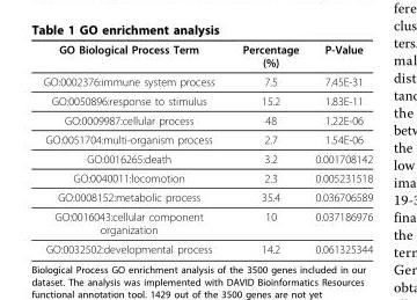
<table><thead><tr><td>GO Biological Process Term</td><td>Percentage (%)</td><td>P-Value</td></tr></thead><tbody><tr><td>GO:0002376:immune system process</td><td>7.5</td><td>7.45E-31</td></tr><tr><td>GO:0050896:response to stimulus</td><td>15.2</td><td>1.83E-11</td></tr><tr><td>GO:0009987:cellular process</td><td>48</td><td>1.22E-06</td></tr><tr><td>GO:0051704:multi-organism process</td><td>2.7</td><td>1.54E-06</td></tr><tr><td>GO:0016265:death</td><td>3.2</td><td>0.001708142</td></tr><tr><td>GO:0040011:locomotion</td><td>2.3</td><td>0.005231518</td></tr><tr><td>GO:0008152:metabolic process</td><td>35.4</td><td>0.036706589</td></tr><tr><td>GO:0016043:cellular component organization</td><td>10</td><td>0.037186976</td></tr><tr><td>GO:0032502:developmental process</td><td>14.2</td><td>0.061325344</td></tr></tbody></table>